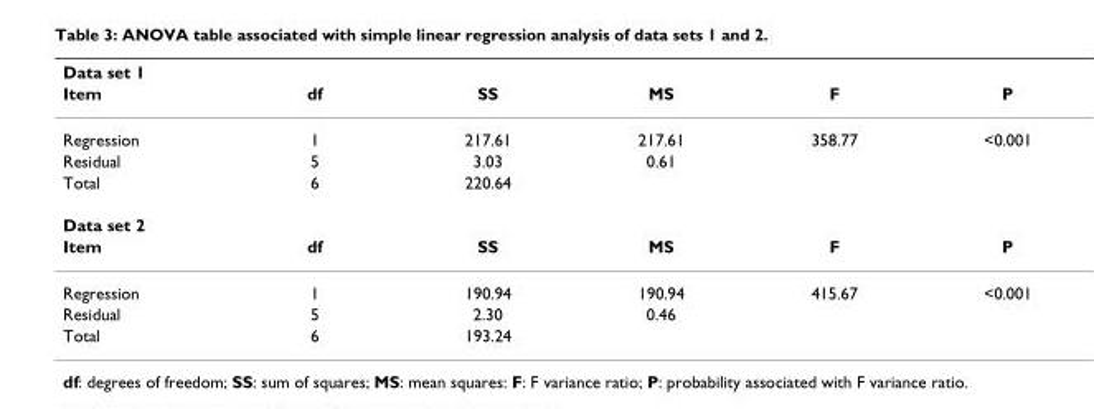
<table><thead><tr><td colspan="6">Data set 1</td></tr><tr><td>Item</td><td>df</td><td>SS</td><td>MS</td><td>F</td><td>P</td></tr></thead><tbody><tr><td>Regression</td><td>1</td><td>217.61</td><td>217.61</td><td>358.77</td><td>&lt;0.001</td></tr><tr><td>Residual</td><td>5</td><td>3.03</td><td>0.61</td><td></td><td></td></tr><tr><td>Total</td><td>6</td><td>220.64</td><td></td><td></td><td></td></tr><tr><td colspan="6">Data set 2</td></tr><tr><td>Item</td><td>df</td><td>SS</td><td>MS</td><td>F</td><td>P</td></tr><tr><td>Regression</td><td>1</td><td>190.94</td><td>190.94</td><td>415.67</td><td>&lt;0.001</td></tr><tr><td>Residual</td><td>5</td><td>2.30</td><td>0.46</td><td></td><td></td></tr><tr><td>Total</td><td>6</td><td>193.24</td><td></td><td></td><td></td></tr></tbody></table>